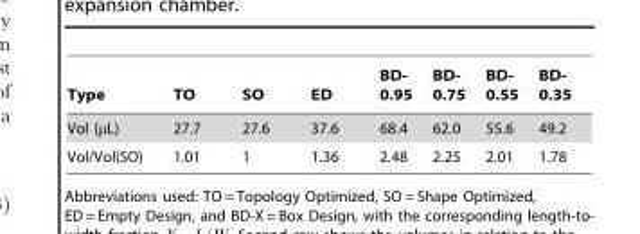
<table><thead><tr><td>Type</td><td>TO</td><td>SO</td><td>ED</td><td>BD- 0.95</td><td>BD- 0.75</td><td>BD- 0.55</td><td>BD- 0.35</td></tr></thead><tbody><tr><td>Vol (mL)</td><td>27.7</td><td>27.6</td><td>37.6</td><td>68.4</td><td>62.0</td><td>55.6</td><td>49.2</td></tr><tr><td>Vol/Vol(SO)</td><td>1.01</td><td>1</td><td>1.36</td><td>2.48</td><td>2.25</td><td>2.01</td><td>1.78</td></tr></tbody></table>